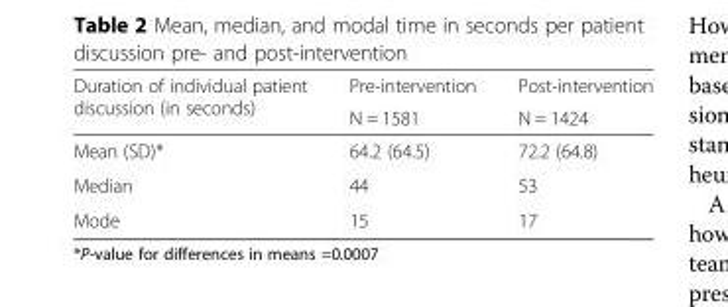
<table><thead><tr><td rowspan="2">Duration of individual patient discussion (in seconds)</td><td rowspan="2">Pre-intervention N = 1581</td><td rowspan="2">Post-intervention N = 1424</td></tr><tr></tr></thead><tbody><tr><td>Mean (SD)*</td><td>64.2 (64.5)</td><td>72.2 (64.8)</td></tr><tr><td>Median</td><td>44</td><td>53</td></tr><tr><td>Mode</td><td>15</td><td>17</td></tr></tbody></table>